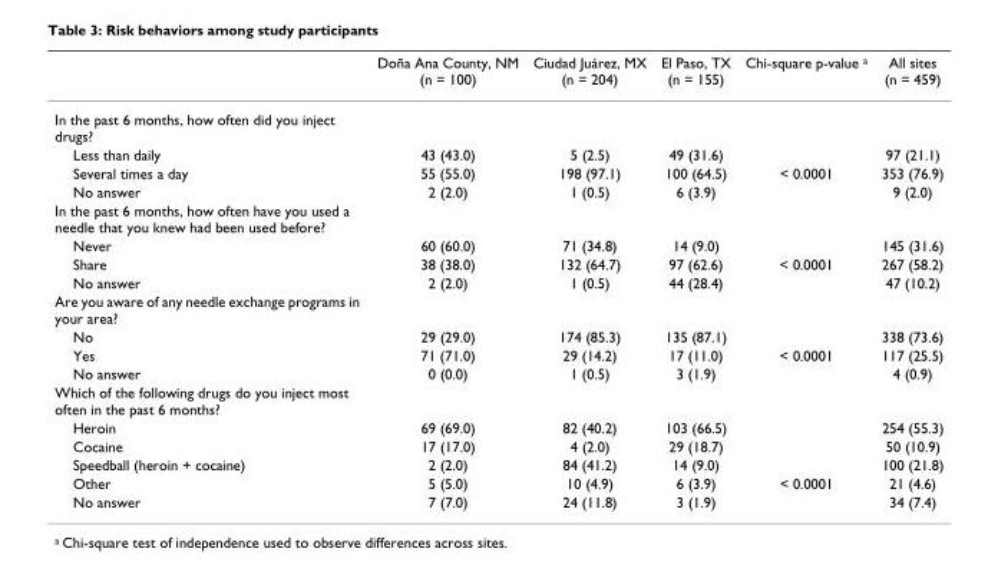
<table><thead><tr><td></td><td>Doña Ana County, NM (n = 100)</td><td>Ciudad Juárez, MX (n = 204)</td><td>El Paso, TX (n = 155)</td><td>Chi-square p-value <sup>a</sup></td><td>All sites (n = 459)</td></tr></thead><tbody><tr><td colspan="6">In the past 6 months, how often did you inject drugs?</td></tr><tr><td>Less than daily</td><td>43 (43.0)</td><td>5 (2.5)</td><td>49 (31.6)</td><td></td><td>97 (21.1)</td></tr><tr><td>Several times a day</td><td>55 (55.0)</td><td>198 (97.1)</td><td>100 (64.5)</td><td>&lt; 0.0001</td><td>353 (76.9)</td></tr><tr><td>No answer</td><td>2 (2.0)</td><td>1 (0.5)</td><td>6 (3.9)</td><td></td><td>9 (2.0)</td></tr><tr><td colspan="6">In the past 6 months, how often have you used a needle that you knew had been used before?</td></tr><tr><td>Never</td><td>60 (60.0)</td><td>71 (34.8)</td><td>14 (9.0)</td><td></td><td>145 (31.6)</td></tr><tr><td>Share</td><td>38 (38.0)</td><td>132 (64.7)</td><td>97 (62.6)</td><td>&lt; 0.0001</td><td>267 (58.2)</td></tr><tr><td>No answer</td><td>2 (2.0)</td><td>1 (0.5)</td><td>44 (28.4)</td><td></td><td>47 (10.2)</td></tr><tr><td colspan="6">Are you aware of any needle exchange programs in your area?</td></tr><tr><td>No</td><td>29 (29.0)</td><td>174 (85.3)</td><td>135 (87.1)</td><td></td><td>338 (73.6)</td></tr><tr><td>Yes</td><td>71 (71.0)</td><td>29 (14.2)</td><td>17 (11.0)</td><td>&lt; 0.0001</td><td>117 (25.5)</td></tr><tr><td>No answer</td><td>0 (0.0)</td><td>1 (0.5)</td><td>3 (1.9)</td><td></td><td>4 (0.9)</td></tr><tr><td colspan="6">Which of the following drugs do you inject most often in the past 6 months?</td></tr><tr><td>Heroin</td><td>69 (69.0)</td><td>82 (40.2)</td><td>103 (66.5)</td><td></td><td>254 (55.3)</td></tr><tr><td>Cocaine</td><td>17 (17.0)</td><td>4 (2.0)</td><td>29 (18.7)</td><td></td><td>50 (10.9)</td></tr><tr><td>Speedball (heroin + cocaine)</td><td>2 (2.0)</td><td>84 (41.2)</td><td>14 (9.0)</td><td></td><td>100 (21.8)</td></tr><tr><td>Other</td><td>5 (5.0)</td><td>10 (4.9)</td><td>6 (3.9)</td><td>&lt; 0.0001</td><td>21 (4.6)</td></tr><tr><td>No answer</td><td>7 (7.0)</td><td>24 (11.8)</td><td>3 (1.9)</td><td></td><td>34 (7.4)</td></tr></tbody></table>